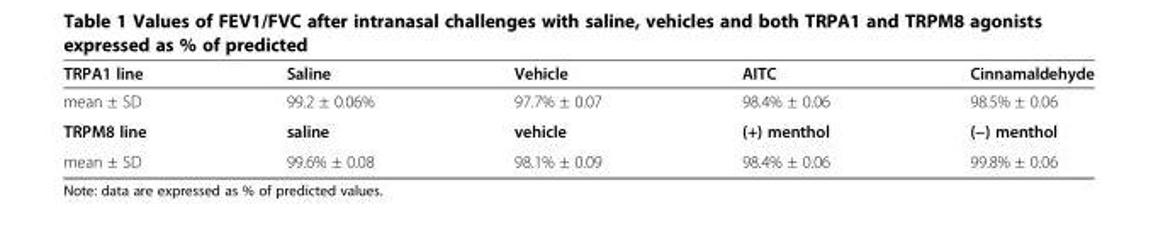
<table><thead><tr><td>TRPA1 line</td><td>Saline</td><td>Vehicle</td><td>AITC</td><td>Cinnamaldehyde</td></tr></thead><tbody><tr><td>mean ± SD</td><td>99.2 ± 0.06%</td><td>97.7% ± 0.07</td><td>98.4% ± 0.06</td><td>98.5% ± 0.06</td></tr><tr><td>TRPM8 line</td><td>saline</td><td>vehicle</td><td>(+) menthol</td><td>(−) menthol</td></tr><tr><td>mean ± SD</td><td>99.6% ± 0.08</td><td>98.1% ± 0.09</td><td>98.4% ± 0.06</td><td>99.8% ± 0.06</td></tr></tbody></table>